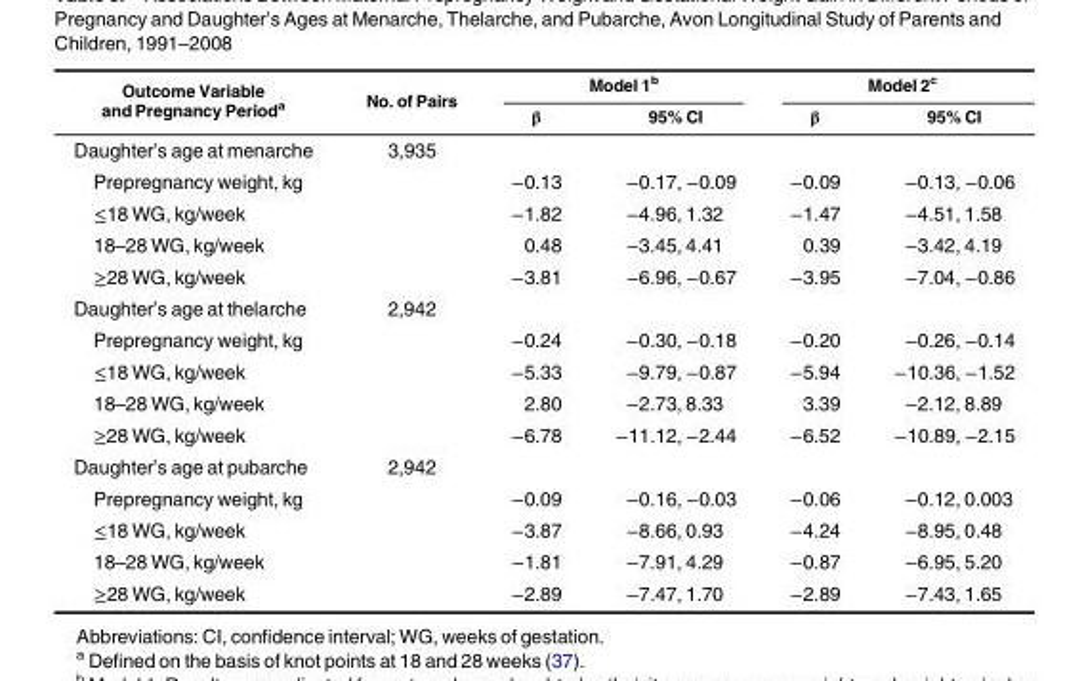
<table><thead><tr><td rowspan="2">Outcome Variable and Pregnancy Period<sup>a</sup></td><td rowspan="2">No. of Pairs</td><td colspan="2">Model 1<sup>b</sup></td><td colspan="2">Model 2<sup>c</sup></td></tr><tr><td>β</td><td>95% CI</td><td>β</td><td>95% CI</td></tr></thead><tbody><tr><td>Daughter’s age at menarche</td><td>3,935</td><td></td><td></td><td></td><td></td></tr><tr><td>Prepregnancy weight, kg</td><td></td><td>−0.13</td><td>−0.17, −0.09</td><td>−0.09</td><td>−0.13, −0.06</td></tr><tr><td>≤18 WG, kg/week</td><td></td><td>−1.82</td><td>−4.96, 1.32</td><td>−1.47</td><td>−4.51, 1.58</td></tr><tr><td>18–28 WG, kg/week</td><td></td><td>0.48</td><td>−3.45, 4.41</td><td>0.39</td><td>−3.42, 4.19</td></tr><tr><td>≥28 WG, kg/week</td><td></td><td>−3.81</td><td>−6.96, −0.67</td><td>−3.95</td><td>−7.04, −0.86</td></tr><tr><td>Daughter’s age at thelarche</td><td>2,942</td><td></td><td></td><td></td><td></td></tr><tr><td>Prepregnancy weight, kg</td><td></td><td>−0.24</td><td>−0.30, −0.18</td><td>−0.20</td><td>−0.26, −0.14</td></tr><tr><td>≤18 WG, kg/week</td><td></td><td>−5.33</td><td>−9.79, −0.87</td><td>−5.94</td><td>−10.36, −1.52</td></tr><tr><td>18–28 WG, kg/week</td><td></td><td>2.80</td><td>−2.73, 8.33</td><td>3.39</td><td>−2.12, 8.89</td></tr><tr><td>≥28 WG, kg/week</td><td></td><td>−6.78</td><td>−11.12, −2.44</td><td>−6.52</td><td>−10.89, −2.15</td></tr><tr><td>Daughter’s age at pubarche</td><td>2,942</td><td></td><td></td><td></td><td></td></tr><tr><td>Prepregnancy weight, kg</td><td></td><td>−0.09</td><td>−0.16, −0.03</td><td>−0.06</td><td>−0.12, 0.003</td></tr><tr><td>≤18 WG, kg/week</td><td></td><td>−3.87</td><td>−8.66, 0.93</td><td>−4.24</td><td>−8.95, 0.48</td></tr><tr><td>18–28 WG, kg/week</td><td></td><td>−1.81</td><td>−7.91, 4.29</td><td>−0.87</td><td>−6.95, 5.20</td></tr><tr><td>≥28 WG, kg/week</td><td></td><td>−2.89</td><td>−7.47, 1.70</td><td>−2.89</td><td>−7.43, 1.65</td></tr></tbody></table>